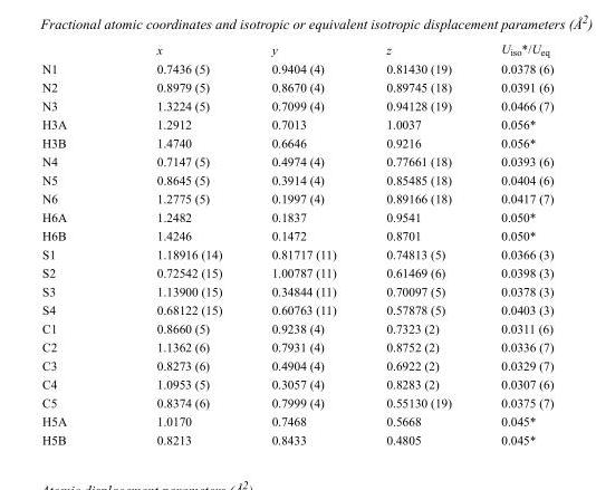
<table><thead><tr><td></td><td>x</td><td>y</td><td>z</td><td>U<sub>iso</sub>*/U<sub>eq</sub></td></tr></thead><tbody><tr><td>N1</td><td>0.7436 (5)</td><td>0.9404 (4)</td><td>0.81430 (19)</td><td>0.0378 (6)</td></tr><tr><td>N2</td><td>0.8979 (5)</td><td>0.8670 (4)</td><td>0.89745 (18)</td><td>0.0391 (6)</td></tr><tr><td>N3</td><td>1.3224 (5)</td><td>0.7099 (4)</td><td>0.94128 (19)</td><td>0.0466 (7)</td></tr><tr><td>H3A</td><td>1.2912</td><td>0.7013</td><td>1.0037</td><td>0.056*</td></tr><tr><td>H3B</td><td>1.4740</td><td>0.6646</td><td>0.9216</td><td>0.056*</td></tr><tr><td>N4</td><td>0.7147 (5)</td><td>0.4974 (4)</td><td>0.77661 (18)</td><td>0.0393 (6)</td></tr><tr><td>N5</td><td>0.8645 (5)</td><td>0.3914 (4)</td><td>0.85485 (18)</td><td>0.0404 (6)</td></tr><tr><td>N6</td><td>1.2775 (5)</td><td>0.1997 (4)</td><td>0.89166 (18)</td><td>0.0417 (7)</td></tr><tr><td>H6A</td><td>1.2482</td><td>0.1837</td><td>0.9541</td><td>0.050*</td></tr><tr><td>H6B</td><td>1.4246</td><td>0.1472</td><td>0.8701</td><td>0.050*</td></tr><tr><td>S1</td><td>1.18916 (14)</td><td>0.81717 (11)</td><td>0.74813 (5)</td><td>0.0366 (3)</td></tr><tr><td>S2</td><td>0.72542 (15)</td><td>1.00787 (11)</td><td>0.61469 (6)</td><td>0.0398 (3)</td></tr><tr><td>S3</td><td>1.13900 (15)</td><td>0.34844 (11)</td><td>0.70097 (5)</td><td>0.0378 (3)</td></tr><tr><td>S4</td><td>0.68122 (15)</td><td>0.60763 (11)</td><td>0.57878 (5)</td><td>0.0403 (3)</td></tr><tr><td>C1</td><td>0.8660 (5)</td><td>0.9238 (4)</td><td>0.7323 (2)</td><td>0.0311 (6)</td></tr><tr><td>C2</td><td>1.1362 (6)</td><td>0.7931 (4)</td><td>0.8752 (2)</td><td>0.0336 (7)</td></tr><tr><td>C3</td><td>0.8273 (6)</td><td>0.4904 (4)</td><td>0.6922 (2)</td><td>0.0329 (7)</td></tr><tr><td>C4</td><td>1.0953 (5)</td><td>0.3057 (4)</td><td>0.8283 (2)</td><td>0.0307 (6)</td></tr><tr><td>C5</td><td>0.8374 (6)</td><td>0.7999 (4)</td><td>0.55130 (19)</td><td>0.0375 (7)</td></tr><tr><td>H5A</td><td>1.0170</td><td>0.7468</td><td>0.5668</td><td>0.045*</td></tr><tr><td>H5B</td><td>0.8213</td><td>0.8433</td><td>0.4805</td><td>0.045*</td></tr></tbody></table>